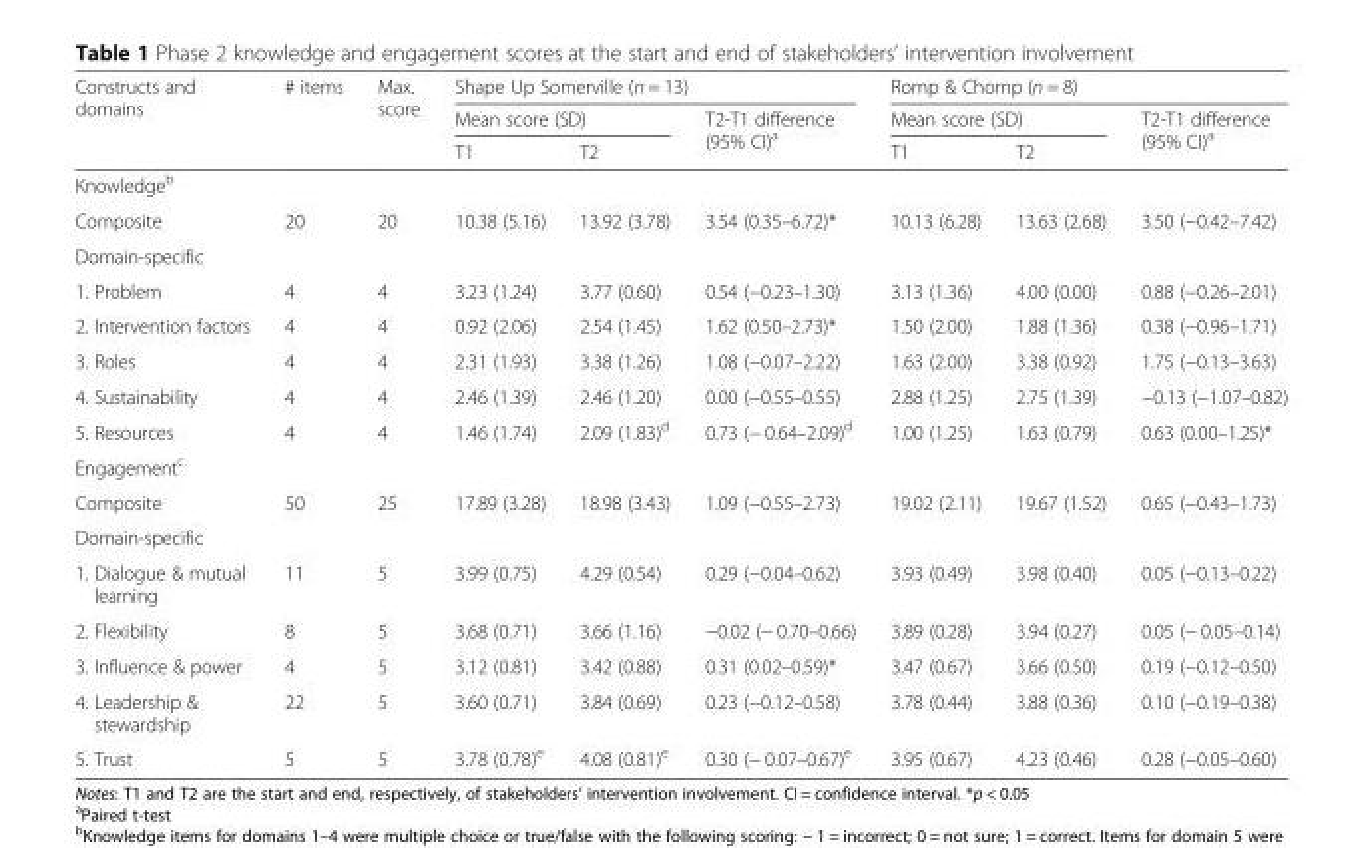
<table><thead><tr><td rowspan="3">Constructs and domains</td><td rowspan="3"># items</td><td rowspan="3">Max. score</td><td colspan="3">Shape Up Somerville (n = 13)</td><td colspan="3">Romp &amp; Chomp (n = 8)</td></tr><tr><td colspan="2">Mean score (SD)</td><td rowspan="2">T2-T1 difference (95% CI)<sup>a</sup></td><td colspan="2">Mean score (SD)</td><td rowspan="2">T2-T1 difference (95% CI)<sup>a</sup></td></tr><tr><td>T1</td><td>T2</td><td>T1</td><td>T2</td></tr></thead><tbody><tr><td colspan="9">Knowledge<sup>b</sup></td></tr><tr><td>Composite</td><td>20</td><td>20</td><td>10.38 (5.16)</td><td>13.92 (3.78)</td><td>3.54 (0.35–6.72)*</td><td>10.13 (6.28)</td><td>13.63 (2.68)</td><td>3.50 (−0.42–7.42)</td></tr><tr><td colspan="9">Domain-specific</td></tr><tr><td>1. Problem</td><td>4</td><td>4</td><td>3.23 (1.24)</td><td>3.77 (0.60)</td><td>0.54 (−0.23–1.30)</td><td>3.13 (1.36)</td><td>4.00 (0.00)</td><td>0.88 (−0.26–2.01)</td></tr><tr><td>2. Intervention factors</td><td>4</td><td>4</td><td>0.92 (2.06)</td><td>2.54 (1.45)</td><td>1.62 (0.50–2.73)*</td><td>1.50 (2.00)</td><td>1.88 (1.36)</td><td>0.38 (−0.96–1.71)</td></tr><tr><td>3. Roles</td><td>4</td><td>4</td><td>2.31 (1.93)</td><td>3.38 (1.26)</td><td>1.08 (−0.07–2.22)</td><td>1.63 (2.00)</td><td>3.38 (0.92)</td><td>1.75 (−0.13–3.63)</td></tr><tr><td>4. Sustainability</td><td>4</td><td>4</td><td>2.46 (1.39)</td><td>2.46 (1.20)</td><td>0.00 (−0.55–0.55)</td><td>2.88 (1.25)</td><td>2.75 (1.39)</td><td>−0.13 (−1.07–0.82)</td></tr><tr><td>5. Resources</td><td>4</td><td>4</td><td>1.46 (1.74)</td><td>2.09 (1.83)<sup>d</sup></td><td>0.73 (− 0.64–2.09)<sup>d</sup></td><td>1.00 (1.25)</td><td>1.63 (0.79)</td><td>0.63 (0.00–1.25)*</td></tr><tr><td colspan="9">Engagement<sup>c</sup></td></tr><tr><td>Composite</td><td>50</td><td>25</td><td>17.89 (3.28)</td><td>18.98 (3.43)</td><td>1.09 (−0.55–2.73)</td><td>19.02 (2.11)</td><td>19.67 (1.52)</td><td>0.65 (−0.43–1.73)</td></tr><tr><td colspan="9">Domain-specific</td></tr><tr><td>1. Dialogue &amp; mutual learning</td><td>11</td><td>5</td><td>3.99 (0.75)</td><td>4.29 (0.54)</td><td>0.29 (−0.04–0.62)</td><td>3.93 (0.49)</td><td>3.98 (0.40)</td><td>0.05 (−0.13–0.22)</td></tr><tr><td>2. Flexibility</td><td>8</td><td>5</td><td>3.68 (0.71)</td><td>3.66 (1.16)</td><td>−0.02 (− 0.70–0.66)</td><td>3.89 (0.28)</td><td>3.94 (0.27)</td><td>0.05 (− 0.05–0.14)</td></tr><tr><td>3. Influence &amp; power</td><td>4</td><td>5</td><td>3.12 (0.81)</td><td>3.42 (0.88)</td><td>0.31 (0.02–0.59)*</td><td>3.47 (0.67)</td><td>3.66 (0.50)</td><td>0.19 (−0.12–0.50)</td></tr><tr><td>4. Leadership &amp; stewardship</td><td>22</td><td>5</td><td>3.60 (0.71)</td><td>3.84 (0.69)</td><td>0.23 (−0.12–0.58)</td><td>3.78 (0.44)</td><td>3.88 (0.36)</td><td>0.10 (−0.19–0.38)</td></tr><tr><td>5. Trust</td><td>5</td><td>5</td><td>3.78 (0.78)<sup>e</sup></td><td>4.08 (0.81)<sup>e</sup></td><td>0.30 (− 0.07–0.67)<sup>e</sup></td><td>3.95 (0.67)</td><td>4.23 (0.46)</td><td>0.28 (−0.05–0.60)</td></tr></tbody></table>